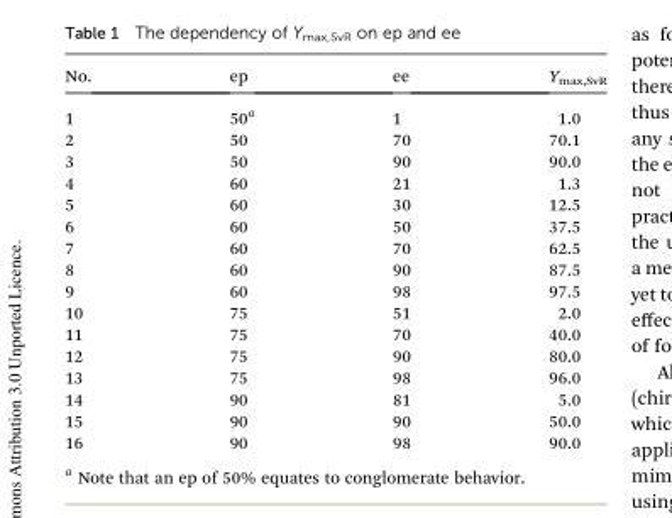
<table><thead><tr><td>No.</td><td>ep</td><td>ee</td><td>Y<sub>max,SvR</sub></td></tr></thead><tbody><tr><td>1</td><td>50<sup>a</sup></td><td>1</td><td>1.0</td></tr><tr><td>2</td><td>50</td><td>70</td><td>70.1</td></tr><tr><td>3</td><td>50</td><td>90</td><td>90.0</td></tr><tr><td>4</td><td>60</td><td>21</td><td>1.3</td></tr><tr><td>5</td><td>60</td><td>30</td><td>12.5</td></tr><tr><td>6</td><td>60</td><td>50</td><td>37.5</td></tr><tr><td>7</td><td>60</td><td>70</td><td>62.5</td></tr><tr><td>8</td><td>60</td><td>90</td><td>87.5</td></tr><tr><td>9</td><td>60</td><td>98</td><td>97.5</td></tr><tr><td>10</td><td>75</td><td>51</td><td>2.0</td></tr><tr><td>11</td><td>75</td><td>70</td><td>40.0</td></tr><tr><td>12</td><td>75</td><td>90</td><td>80.0</td></tr><tr><td>13</td><td>75</td><td>98</td><td>96.0</td></tr><tr><td>14</td><td>90</td><td>81</td><td>5.0</td></tr><tr><td>15</td><td>90</td><td>90</td><td>50.0</td></tr><tr><td>16</td><td>90</td><td>98</td><td>90.0</td></tr></tbody></table>